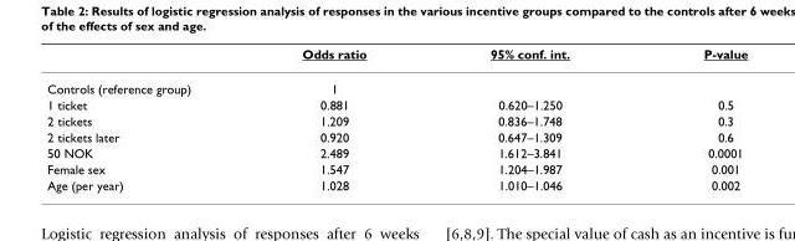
<table><thead><tr><td></td><td>Odds ratio</td><td>95% conf. int.</td><td>P-value</td></tr></thead><tbody><tr><td>Controls (reference group)</td><td>1</td><td></td><td></td></tr><tr><td>1 ticket</td><td>0.881</td><td>0.620–1.250</td><td>0.5</td></tr><tr><td>2 tickets</td><td>1.209</td><td>0.836–1.748</td><td>0.3</td></tr><tr><td>2 tickets later</td><td>0.920</td><td>0.647–1.309</td><td>0.6</td></tr><tr><td>50 NOK</td><td>2.489</td><td>1.612–3.841</td><td>0.0001</td></tr><tr><td>Female sex</td><td>1.547</td><td>1.204–1.987</td><td>0.001</td></tr><tr><td>Age (per year)</td><td>1.028</td><td>1.010–1.046</td><td>0.002</td></tr></tbody></table>